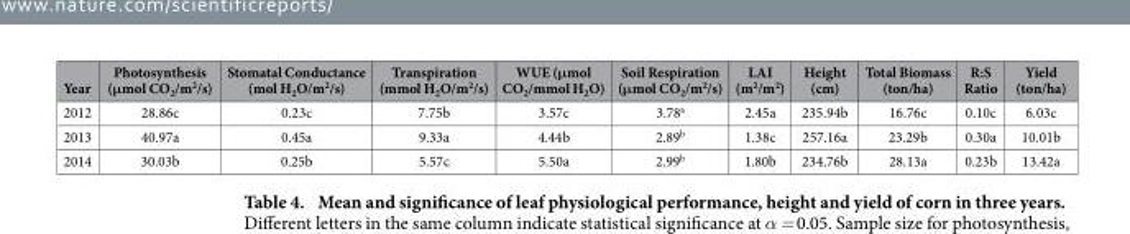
<table><thead><tr><td>Year</td><td>Photosynthesis (μmol CO<sub>2</sub>/m<sup>2</sup>/s)</td><td>Stomatal Conductance (mol H<sub>2</sub>O/m<sup>2</sup>/s)</td><td>Transpiration (mmol H<sub>2</sub>O/m<sup>2</sup>/s)</td><td>WUE (μmol CO<sub>2</sub>/mmol H<sub>2</sub>O)</td><td>Soil Respiration (μmol CO<sub>2</sub>/m<sup>2</sup>/s)</td><td>LAI (m<sup>2</sup>/m<sup>2</sup>)</td><td>Height (cm)</td><td>Total Biomass (ton/ha)</td><td>R:S Ratio</td><td>Yield (ton/ha)</td></tr></thead><tbody><tr><td>2012</td><td>28.86c</td><td>0.23c</td><td>7.75b</td><td>3.57c</td><td>3.78<sup>a</sup></td><td>2.45a</td><td>235.94b</td><td>16.76c</td><td>0.10c</td><td>6.03c</td></tr><tr><td>2013</td><td>40.97a</td><td>0.45a</td><td>9.33a</td><td>4.44b</td><td>2.89<sup>b</sup></td><td>1.38c</td><td>257.16a</td><td>23.29b</td><td>0.30a</td><td>10.01b</td></tr><tr><td>2014</td><td>30.03b</td><td>0.25b</td><td>5.57c</td><td>5.50a</td><td>2.99<sup>b</sup></td><td>1.80b</td><td>234.76b</td><td>28.13a</td><td>0.23b</td><td>13.42a</td></tr></tbody></table>